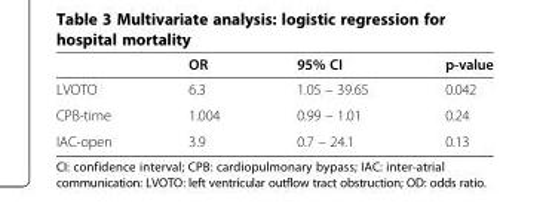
<table><thead><tr><td></td><td>OR</td><td>95% CI</td><td>p-value</td></tr></thead><tbody><tr><td>LVOTO</td><td>6.3</td><td>1.05 – 39.65</td><td>0.042</td></tr><tr><td>CPB-time</td><td>1.004</td><td>0.99 – 1.01</td><td>0.24</td></tr><tr><td>IAC-open</td><td>3.9</td><td>0.7 – 24.1</td><td>0.13</td></tr></tbody></table>